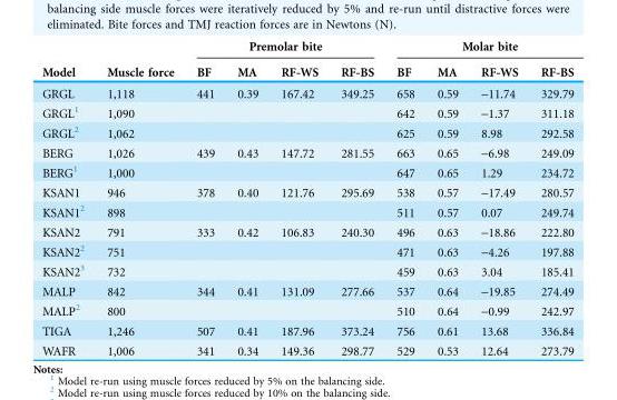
<table><thead><tr><td rowspan="2">Model</td><td rowspan="2">Muscle force</td><td colspan="4">Premolar bite</td><td colspan="4">Molar bite</td></tr><tr><td>BF</td><td>MA</td><td>RF-WS</td><td>RF-BS</td><td>BF</td><td>MA</td><td>RF-WS</td><td>RF-BS</td></tr></thead><tbody><tr><td>GRGL</td><td>1,118</td><td>441</td><td>0.39</td><td>167.42</td><td>349.25</td><td>658</td><td>0.59</td><td>-11.74</td><td>329.79</td></tr><tr><td>GRGL<sup>1</sup></td><td>1,090</td><td></td><td></td><td></td><td></td><td>642</td><td>0.59</td><td>-1.37</td><td>311.18</td></tr><tr><td>GRGL<sup>2</sup></td><td>1,062</td><td></td><td></td><td></td><td></td><td>625</td><td>0.59</td><td>8.98</td><td>292.58</td></tr><tr><td>BERG</td><td>1,026</td><td>439</td><td>0.43</td><td>147.72</td><td>281.55</td><td>663</td><td>0.65</td><td>-6.98</td><td>249.09</td></tr><tr><td>BERG<sup>1</sup></td><td>1,000</td><td></td><td></td><td></td><td></td><td>647</td><td>0.65</td><td>1.29</td><td>234.72</td></tr><tr><td>KSAN1</td><td>946</td><td>378</td><td>0.40</td><td>121.76</td><td>295.69</td><td>538</td><td>0.57</td><td>-17.49</td><td>280.57</td></tr><tr><td>KSAN1<sup>2</sup></td><td>898</td><td></td><td></td><td></td><td></td><td>511</td><td>0.57</td><td>0.07</td><td>249.74</td></tr><tr><td>KSAN2</td><td>791</td><td>333</td><td>0.42</td><td>106.83</td><td>240.30</td><td>496</td><td>0.63</td><td>-18.86</td><td>222.80</td></tr><tr><td>KSAN2<sup>2</sup></td><td>751</td><td></td><td></td><td></td><td></td><td>471</td><td>0.63</td><td>-4.26</td><td>197.88</td></tr><tr><td>KSAN2<sup>3</sup></td><td>732</td><td></td><td></td><td></td><td></td><td>459</td><td>0.63</td><td>3.04</td><td>185.41</td></tr><tr><td>MALP</td><td>842</td><td>344</td><td>0.41</td><td>131.09</td><td>277.66</td><td>537</td><td>0.64</td><td>-19.85</td><td>274.49</td></tr><tr><td>MALP<sup>2</sup></td><td>800</td><td></td><td></td><td></td><td></td><td>510</td><td>0.64</td><td>-0.99</td><td>242.97</td></tr><tr><td>TIGA</td><td>1,246</td><td>507</td><td>0.41</td><td>187.96</td><td>373.24</td><td>756</td><td>0.61</td><td>13.68</td><td>336.84</td></tr><tr><td>WAFR</td><td>1,006</td><td>341</td><td>0.34</td><td>149.36</td><td>298.77</td><td>529</td><td>0.53</td><td>12.64</td><td>273.79</td></tr></tbody></table>